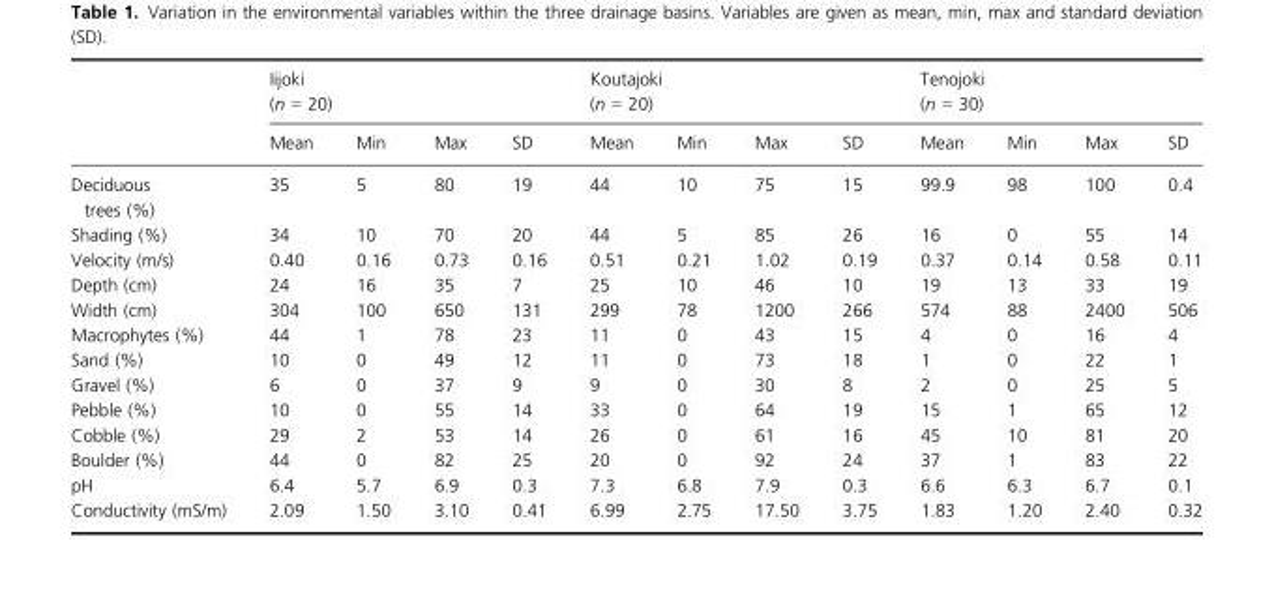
<table><thead><tr><td rowspan="2"></td><td colspan="4">Iijoki (n = 20)</td><td colspan="4">Koutajoki (n = 20)</td><td colspan="4">Tenojoki (n = 30)</td></tr><tr><td>Mean</td><td>Min</td><td>Max</td><td>SD</td><td>Mean</td><td>Min</td><td>Max</td><td>SD</td><td>Mean</td><td>Min</td><td>Max</td><td>SD</td></tr></thead><tbody><tr><td>Deciduous trees (%)</td><td>35</td><td>5</td><td>80</td><td>19</td><td>44</td><td>10</td><td>75</td><td>15</td><td>99.9</td><td>98</td><td>100</td><td>0.4</td></tr><tr><td>Shading (%)</td><td>34</td><td>10</td><td>70</td><td>20</td><td>44</td><td>5</td><td>85</td><td>26</td><td>16</td><td>0</td><td>55</td><td>14</td></tr><tr><td>Velocity (m/s)</td><td>0.40</td><td>0.16</td><td>0.73</td><td>0.16</td><td>0.51</td><td>0.21</td><td>1.02</td><td>0.19</td><td>0.37</td><td>0.14</td><td>0.58</td><td>0.11</td></tr><tr><td>Depth (cm)</td><td>24</td><td>16</td><td>35</td><td>7</td><td>25</td><td>10</td><td>46</td><td>10</td><td>19</td><td>13</td><td>33</td><td>19</td></tr><tr><td>Width (cm)</td><td>304</td><td>100</td><td>650</td><td>131</td><td>299</td><td>78</td><td>1200</td><td>266</td><td>574</td><td>88</td><td>2400</td><td>506</td></tr><tr><td>Macrophytes (%)</td><td>44</td><td>1</td><td>78</td><td>23</td><td>11</td><td>0</td><td>43</td><td>15</td><td>4</td><td>0</td><td>16</td><td>4</td></tr><tr><td>Sand (%)</td><td>10</td><td>0</td><td>49</td><td>12</td><td>11</td><td>0</td><td>73</td><td>18</td><td>1</td><td>0</td><td>22</td><td>1</td></tr><tr><td>Gravel (%)</td><td>6</td><td>0</td><td>37</td><td>9</td><td>9</td><td>0</td><td>30</td><td>8</td><td>2</td><td>0</td><td>25</td><td>5</td></tr><tr><td>Pebble (%)</td><td>10</td><td>0</td><td>55</td><td>14</td><td>33</td><td>0</td><td>64</td><td>19</td><td>15</td><td>1</td><td>65</td><td>12</td></tr><tr><td>Cobble (%)</td><td>29</td><td>2</td><td>53</td><td>14</td><td>26</td><td>0</td><td>61</td><td>16</td><td>45</td><td>10</td><td>81</td><td>20</td></tr><tr><td>Boulder (%)</td><td>44</td><td>0</td><td>82</td><td>25</td><td>20</td><td>0</td><td>92</td><td>24</td><td>37</td><td>1</td><td>83</td><td>22</td></tr><tr><td>pH</td><td>6.4</td><td>5.7</td><td>6.9</td><td>0.3</td><td>7.3</td><td>6.8</td><td>7.9</td><td>0.3</td><td>6.6</td><td>6.3</td><td>6.7</td><td>0.1</td></tr><tr><td>Conductivity (mS/m)</td><td>2.09</td><td>1.50</td><td>3.10</td><td>0.41</td><td>6.99</td><td>2.75</td><td>17.50</td><td>3.75</td><td>1.83</td><td>1.20</td><td>2.40</td><td>0.32</td></tr></tbody></table>